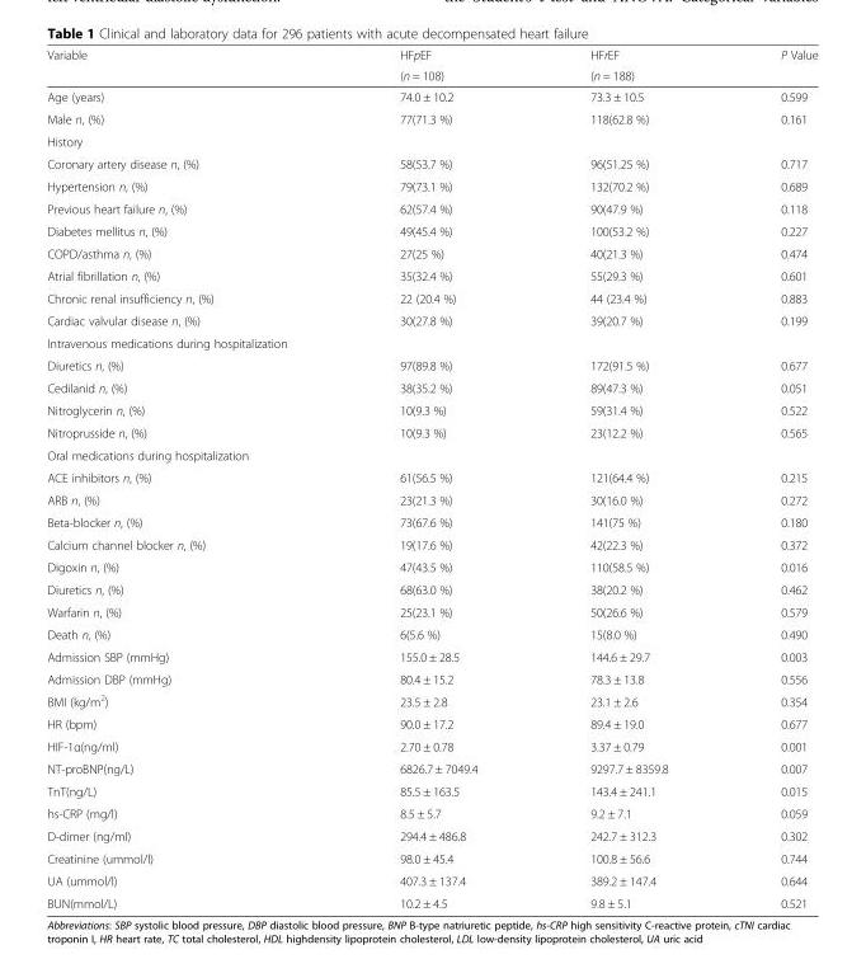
<table><thead><tr><td rowspan="2">Variable</td><td rowspan="2">HFpEF (n = 108)</td><td rowspan="2">HFrEF (n = 188)</td><td rowspan="2">P Value</td></tr><tr></tr></thead><tbody><tr><td>Age (years)</td><td>74.0 ± 10.2</td><td>73.3 ± 10.5</td><td>0.599</td></tr><tr><td>Male n, (%)</td><td>77(71.3 %)</td><td>118(62.8 %)</td><td>0.161</td></tr><tr><td colspan="4">History</td></tr><tr><td>Coronary artery disease n, (%)</td><td>58(53.7 %)</td><td>96(51.25 %)</td><td>0.717</td></tr><tr><td>Hypertension n, (%)</td><td>79(73.1 %)</td><td>132(70.2 %)</td><td>0.689</td></tr><tr><td>Previous heart failure n, (%)</td><td>62(57.4 %)</td><td>90(47.9 %)</td><td>0.118</td></tr><tr><td>Diabetes mellitus n, (%)</td><td>49(45.4 %)</td><td>100(53.2 %)</td><td>0.227</td></tr><tr><td>COPD/asthma n, (%)</td><td>27(25 %)</td><td>40(21.3 %)</td><td>0.474</td></tr><tr><td>Atrial fibrillation n, (%)</td><td>35(32.4 %)</td><td>55(29.3 %)</td><td>0.601</td></tr><tr><td>Chronic renal insufficiency n, (%)</td><td>22 (20.4 %)</td><td>44 (23.4 %)</td><td>0.883</td></tr><tr><td>Cardiac valvular disease n, (%)</td><td>30(27.8 %)</td><td>39(20.7 %)</td><td>0.199</td></tr><tr><td colspan="4">Intravenous medications during hospitalization</td></tr><tr><td>Diuretics n, (%)</td><td>97(89.8 %)</td><td>172(91.5 %)</td><td>0.677</td></tr><tr><td>Cedilanid n, (%)</td><td>38(35.2 %)</td><td>89(47.3 %)</td><td>0.051</td></tr><tr><td>Nitroglycerin n, (%)</td><td>10(9.3 %)</td><td>59(31.4 %)</td><td>0.522</td></tr><tr><td>Nitroprusside n, (%)</td><td>10(9.3 %)</td><td>23(12.2 %)</td><td>0.565</td></tr><tr><td colspan="4">Oral medications during hospitalization</td></tr><tr><td>ACE inhibitors n, (%)</td><td>61(56.5 %)</td><td>121(64.4 %)</td><td>0.215</td></tr><tr><td>ARB n, (%)</td><td>23(21.3 %)</td><td>30(16.0 %)</td><td>0.272</td></tr><tr><td>Beta-blocker n, (%)</td><td>73(67.6 %)</td><td>141(75 %)</td><td>0.180</td></tr><tr><td>Calcium channel blocker n, (%)</td><td>19(17.6 %)</td><td>42(22.3 %)</td><td>0.372</td></tr><tr><td>Digoxin n, (%)</td><td>47(43.5 %)</td><td>110(58.5 %)</td><td>0.016</td></tr><tr><td>Diuretics n, (%)</td><td>68(63.0 %)</td><td>38(20.2 %)</td><td>0.462</td></tr><tr><td>Warfarin n, (%)</td><td>25(23.1 %)</td><td>50(26.6 %)</td><td>0.579</td></tr><tr><td>Death n, (%)</td><td>6(5.6 %)</td><td>15(8.0 %)</td><td>0.490</td></tr><tr><td>Admission SBP (mmHg)</td><td>155.0 ± 28.5</td><td>144.6 ± 29.7</td><td>0.003</td></tr><tr><td>Admission DBP (mmHg)</td><td>80.4 ± 15.2</td><td>78.3 ± 13.8</td><td>0.556</td></tr><tr><td>BMI (kg/m<sup>2</sup>)</td><td>23.5 ± 2.8</td><td>23.1 ± 2.6</td><td>0.354</td></tr><tr><td>HR (bpm)</td><td>90.0 ± 17.2</td><td>89.4 ± 19.0</td><td>0.677</td></tr><tr><td>HIF-1α(ng/ml)</td><td>2.70 ± 0.78</td><td>3.37 ± 0.79</td><td>0.001</td></tr><tr><td>NT-proBNP(ng/L)</td><td>6826.7 ± 7049.4</td><td>9297.7 ± 8359.8</td><td>0.007</td></tr><tr><td>TnT(ng/L)</td><td>85.5 ± 163.5</td><td>143.4 ± 241.1</td><td>0.015</td></tr><tr><td>hs-CRP (mg/l)</td><td>8.5 ± 5.7</td><td>9.2 ± 7.1</td><td>0.059</td></tr><tr><td>D-dimer (ng/ml)</td><td>294.4 ± 486.8</td><td>242.7 ± 312.3</td><td>0.302</td></tr><tr><td>Creatinine (ummol/l)</td><td>98.0 ± 45.4</td><td>100.8 ± 56.6</td><td>0.744</td></tr><tr><td>UA (ummol/l)</td><td>407.3 ± 137.4</td><td>389.2 ± 147.4</td><td>0.644</td></tr><tr><td>BUN(mmol/L)</td><td>10.2 ± 4.5</td><td>9.8 ± 5.1</td><td>0.521</td></tr></tbody></table>